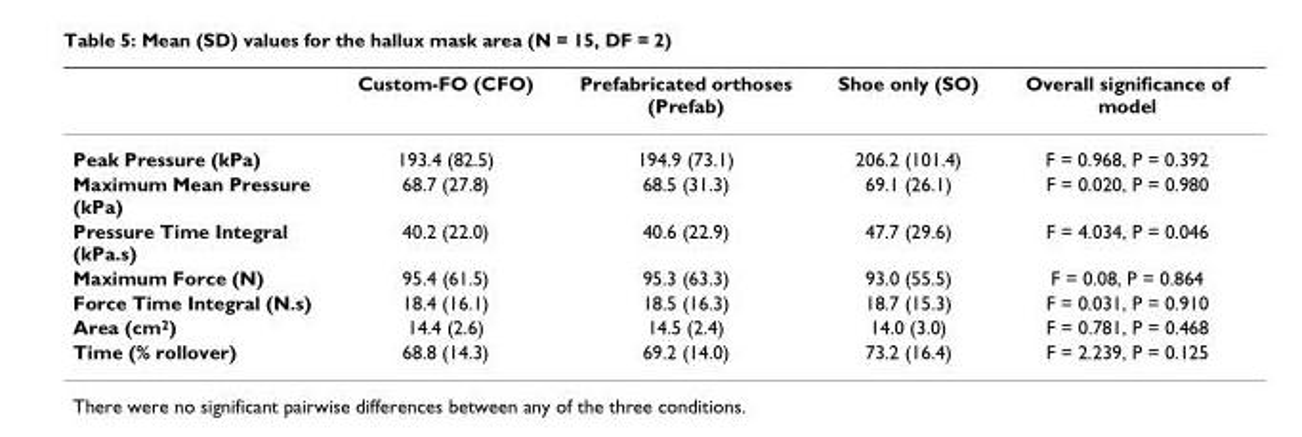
<table><thead><tr><td></td><td>Custom-FO (CFO)</td><td>Prefabricated orthoses (Prefab)</td><td>Shoe only (SO)</td><td>Overall significance of model</td></tr></thead><tbody><tr><td>Peak Pressure (kPa)</td><td>193.4 (82.5)</td><td>194.9 (73.1)</td><td>206.2 (101.4)</td><td>F = 0.968, P = 0.392</td></tr><tr><td>Maximum Mean Pressure (kPa)</td><td>68.7 (27.8)</td><td>68.5 (31.3)</td><td>69.1 (26.1)</td><td>F = 0.020, P = 0.980</td></tr><tr><td>Pressure Time Integral (kPa.s)</td><td>40.2 (22.0)</td><td>40.6 (22.9)</td><td>47.7 (29.6)</td><td>F = 4.034, P = 0.046</td></tr><tr><td>Maximum Force (N)</td><td>95.4 (61.5)</td><td>95.3 (63.3)</td><td>93.0 (55.5)</td><td>F = 0.08, P = 0.864</td></tr><tr><td>Force Time Integral (N.s)</td><td>18.4 (16.1)</td><td>18.5 (16.3)</td><td>18.7 (15.3)</td><td>F = 0.031, P = 0.910</td></tr><tr><td>Area (cm<sup>2</sup>)</td><td>14.4 (2.6)</td><td>14.5 (2.4)</td><td>14.0 (3.0)</td><td>F = 0.781, P = 0.468</td></tr><tr><td>Time (% rollover)</td><td>68.8 (14.3)</td><td>69.2 (14.0)</td><td>73.2 (16.4)</td><td>F = 2.239, P = 0.125</td></tr></tbody></table>